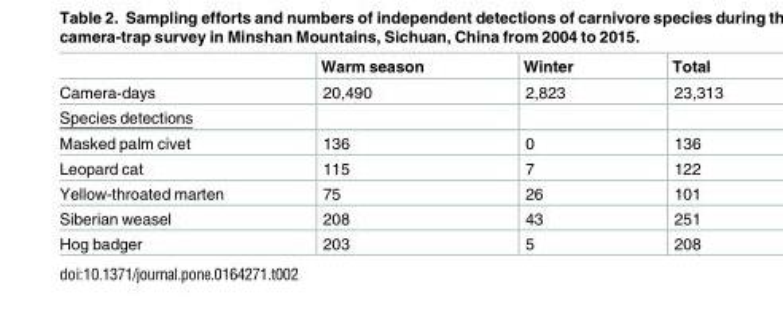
<table><thead><tr><td></td><td>Warm season</td><td>Winter</td><td>Total</td></tr></thead><tbody><tr><td>Camera-days</td><td>20,490</td><td>2,823</td><td>23,313</td></tr><tr><td colspan="4">Species detections</td></tr><tr><td>Masked palm civet</td><td>136</td><td>0</td><td>136</td></tr><tr><td>Leopard cat</td><td>115</td><td>7</td><td>122</td></tr><tr><td>Yellow-throated marten</td><td>75</td><td>26</td><td>101</td></tr><tr><td>Siberian weasel</td><td>208</td><td>43</td><td>251</td></tr><tr><td>Hog badger</td><td>203</td><td>5</td><td>208</td></tr></tbody></table>